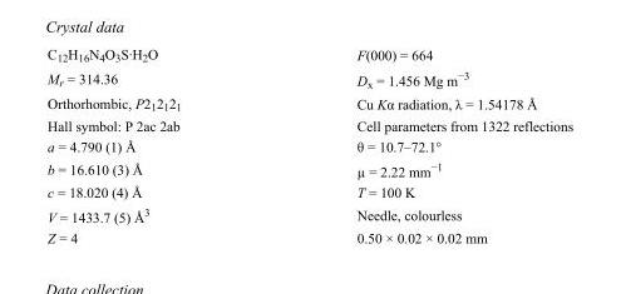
<table><tbody><tr><td>C<sub>12</sub>H<sub>16</sub>N<sub>4</sub>O<sub>3</sub>S·H<sub>2</sub>O</td><td>F(000) = 664</td></tr><tr><td>M<sub>r</sub> = 314.36</td><td>D<sub>x</sub> = 1.456 Mg m<sup>−3</sup></td></tr><tr><td>Orthorhombic, P2<sub>1</sub>2<sub>1</sub>2<sub>1</sub></td><td>Cu Kα radiation, λ = 1.54178 Å</td></tr><tr><td>Hall symbol: P 2ac 2ab</td><td>Cell parameters from 1322 reflections</td></tr><tr><td>a = 4.790 (1) Å</td><td>θ = 10.7–72.1°</td></tr><tr><td>b = 16.610 (3) Å</td><td>µ = 2.22 mm<sup>−1</sup></td></tr><tr><td>c = 18.020 (4) Å</td><td>T = 100 K</td></tr><tr><td>V = 1433.7 (5) Å<sup>3</sup></td><td>Needle, colourless</td></tr><tr><td>Z = 4</td><td>0.50 × 0.02 × 0.02 mm</td></tr></tbody></table>